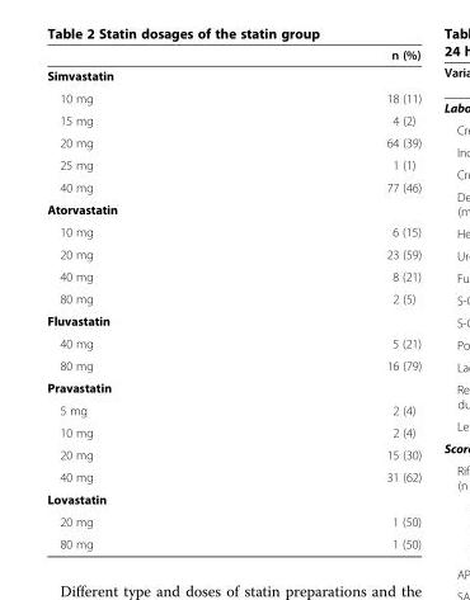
<table><thead><tr><td></td><td>n (%)</td></tr></thead><tbody><tr><td colspan="2">Simvastatin</td></tr><tr><td>10 mg</td><td>18 (11)</td></tr><tr><td>15 mg</td><td>4 (2)</td></tr><tr><td>20 mg</td><td>64 (39)</td></tr><tr><td>25 mg</td><td>1 (1)</td></tr><tr><td>40 mg</td><td>77 (46)</td></tr><tr><td colspan="2">Atorvastatin</td></tr><tr><td>10 mg</td><td>6 (15)</td></tr><tr><td>20 mg</td><td>23 (59)</td></tr><tr><td>40 mg</td><td>8 (21)</td></tr><tr><td>80 mg</td><td>2 (5)</td></tr><tr><td colspan="2">Fluvastatin</td></tr><tr><td>40 mg</td><td>5 (21)</td></tr><tr><td>80 mg</td><td>16 (79)</td></tr><tr><td colspan="2">Pravastatin</td></tr><tr><td>5 mg</td><td>2 (4)</td></tr><tr><td>10 mg</td><td>2 (4)</td></tr><tr><td>20 mg</td><td>15 (30)</td></tr><tr><td>40 mg</td><td>31 (62)</td></tr><tr><td colspan="2">Lovastatin</td></tr><tr><td>20 mg</td><td>1 (50)</td></tr><tr><td>80 mg</td><td>1 (50)</td></tr></tbody></table>